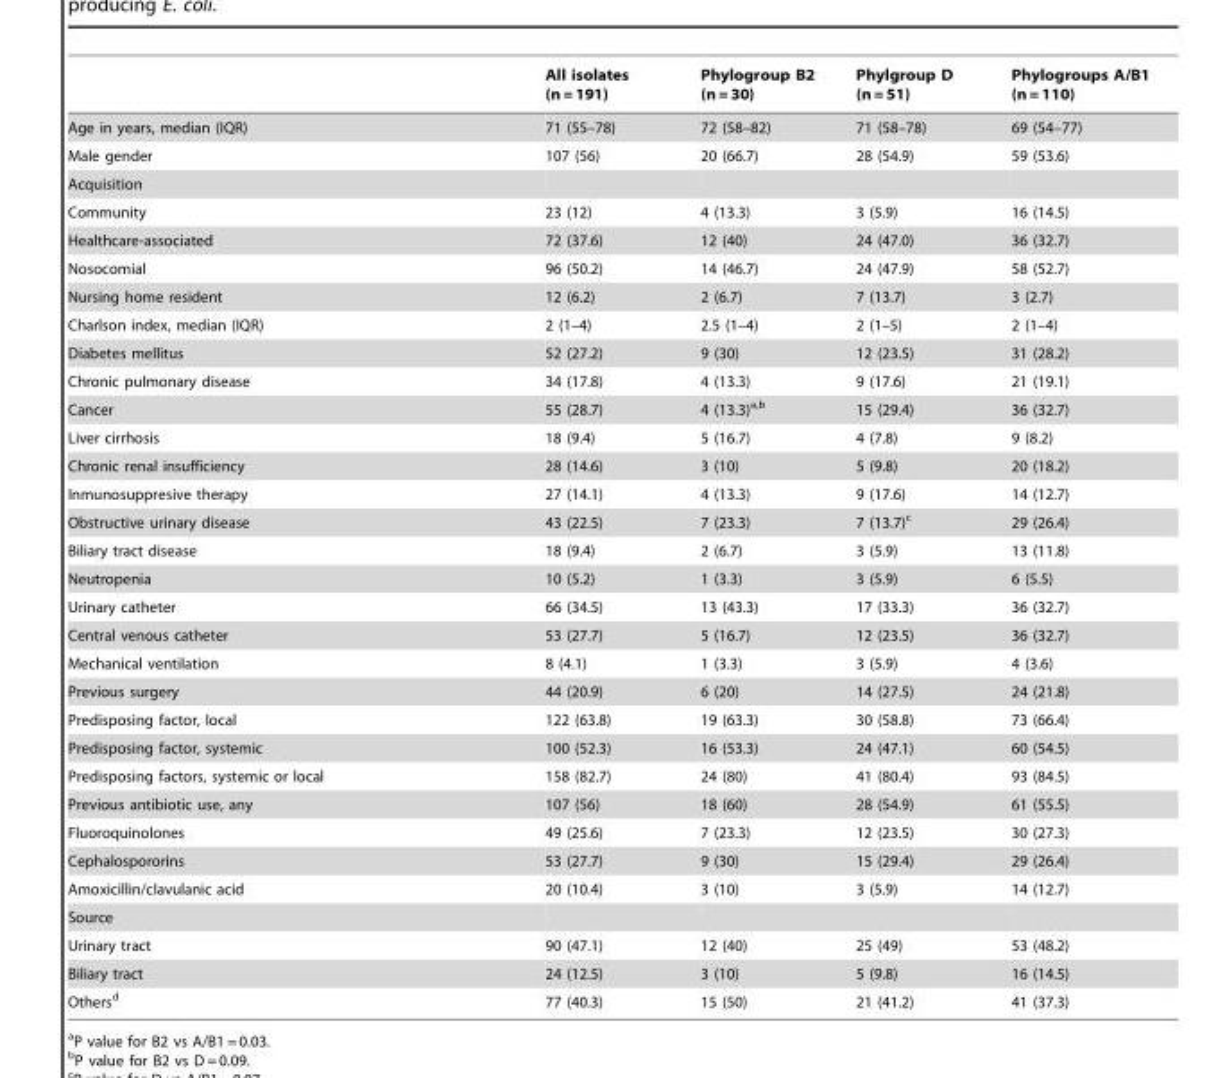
<table><thead><tr><td></td><td>All isolates (n = 191)</td><td>Phylogroup B2 (n = 30)</td><td>Phylgroup D (n = 51)</td><td>Phylogroups A/B1 (n = 110)</td></tr></thead><tbody><tr><td>Age in years, median (IQR)</td><td>71 (55–78)</td><td>72 (58–82)</td><td>71 (58–78)</td><td>69 (54–77)</td></tr><tr><td>Male gender</td><td>107 (56)</td><td>20 (66.7)</td><td>28 (54.9)</td><td>59 (53.6)</td></tr><tr><td colspan="5">Acquisition</td></tr><tr><td>Community</td><td>23 (12)</td><td>4 (13.3)</td><td>3 (5.9)</td><td>16 (14.5)</td></tr><tr><td>Healthcare-associated</td><td>72 (37.6)</td><td>12 (40)</td><td>24 (47.0)</td><td>36 (32.7)</td></tr><tr><td>Nosocomial</td><td>96 (50.2)</td><td>14 (46.7)</td><td>24 (47.9)</td><td>58 (52.7)</td></tr><tr><td>Nursing home resident</td><td>12 (6.2)</td><td>2 (6.7)</td><td>7 (13.7)</td><td>3 (2.7)</td></tr><tr><td>Charlson index, median (IQR)</td><td>2 (1–4)</td><td>2.5 (1–4)</td><td>2 (1–5)</td><td>2 (1–4)</td></tr><tr><td>Diabetes mellitus</td><td>52 (27.2)</td><td>9 (30)</td><td>12 (23.5)</td><td>31 (28.2)</td></tr><tr><td>Chronic pulmonary disease</td><td>34 (17.8)</td><td>4 (13.3)</td><td>9 (17.6)</td><td>21 (19.1)</td></tr><tr><td>Cancer</td><td>55 (28.7)</td><td>4 (13.3)a,b</td><td>15 (29.4)</td><td>36 (32.7)</td></tr><tr><td>Liver cirrhosis</td><td>18 (9.4)</td><td>5 (16.7)</td><td>4 (7.8)</td><td>9 (8.2)</td></tr><tr><td>Chronic renal insufficiency</td><td>28 (14.6)</td><td>3 (10)</td><td>5 (9.8)</td><td>20 (18.2)</td></tr><tr><td>Inmunosuppresive therapy</td><td>27 (14.1)</td><td>4 (13.3)</td><td>9 (17.6)</td><td>14 (12.7)</td></tr><tr><td>Obstructive urinary disease</td><td>43 (22.5)</td><td>7 (23.3)</td><td>7 (13.7)<sup>c</sup></td><td>29 (26.4)</td></tr><tr><td>Biliary tract disease</td><td>18 (9.4)</td><td>2 (6.7)</td><td>3 (5.9)</td><td>13 (11.8)</td></tr><tr><td>Neutropenia</td><td>10 (5.2)</td><td>1 (3.3)</td><td>3 (5.9)</td><td>6 (5.5)</td></tr><tr><td>Urinary catheter</td><td>66 (34.5)</td><td>13 (43.3)</td><td>17 (33.3)</td><td>36 (32.7)</td></tr><tr><td>Central venous catheter</td><td>53 (27.7)</td><td>5 (16.7)</td><td>12 (23.5)</td><td>36 (32.7)</td></tr><tr><td>Mechanical ventilation</td><td>8 (4.1)</td><td>1 (3.3)</td><td>3 (5.9)</td><td>4 (3.6)</td></tr><tr><td>Previous surgery</td><td>44 (20.9)</td><td>6 (20)</td><td>14 (27.5)</td><td>24 (21.8)</td></tr><tr><td>Predisposing factor, local</td><td>122 (63.8)</td><td>19 (63.3)</td><td>30 (58.8)</td><td>73 (66.4)</td></tr><tr><td>Predisposing factor, systemic</td><td>100 (52.3)</td><td>16 (53.3)</td><td>24 (47.1)</td><td>60 (54.5)</td></tr><tr><td>Predisposing factors, systemic or local</td><td>158 (82.7)</td><td>24 (80)</td><td>41 (80.4)</td><td>93 (84.5)</td></tr><tr><td>Previous antibiotic use, any</td><td>107 (56)</td><td>18 (60)</td><td>28 (54.9)</td><td>61 (55.5)</td></tr><tr><td>Fluoroquinolones</td><td>49 (25.6)</td><td>7 (23.3)</td><td>12 (23.5)</td><td>30 (27.3)</td></tr><tr><td>Cephalospororins</td><td>53 (27.7)</td><td>9 (30)</td><td>15 (29.4)</td><td>29 (26.4)</td></tr><tr><td>Amoxicillin/clavulanic acid</td><td>20 (10.4)</td><td>3 (10)</td><td>3 (5.9)</td><td>14 (12.7)</td></tr><tr><td colspan="5">Source</td></tr><tr><td>Urinary tract</td><td>90 (47.1)</td><td>12 (40)</td><td>25 (49)</td><td>53 (48.2)</td></tr><tr><td>Biliary tract</td><td>24 (12.5)</td><td>3 (10)</td><td>5 (9.8)</td><td>16 (14.5)</td></tr><tr><td>Others<sup>d</sup></td><td>77 (40.3)</td><td>15 (50)</td><td>21 (41.2)</td><td>41 (37.3)</td></tr></tbody></table>